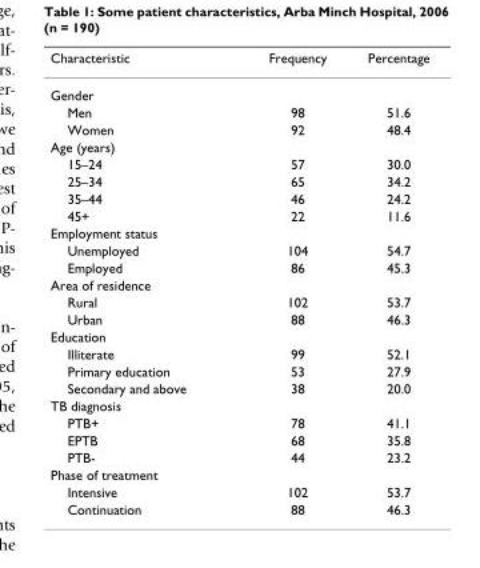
<table><thead><tr><td>Characteristic</td><td>Frequency</td><td>Percentage</td></tr></thead><tbody><tr><td colspan="3">Gender</td></tr><tr><td>Men</td><td>98</td><td>51.6</td></tr><tr><td>Women</td><td>92</td><td>48.4</td></tr><tr><td colspan="3">Age (years)</td></tr><tr><td>15–24</td><td>57</td><td>30.0</td></tr><tr><td>25–34</td><td>65</td><td>34.2</td></tr><tr><td>35–44</td><td>46</td><td>24.2</td></tr><tr><td>45+</td><td>22</td><td>11.6</td></tr><tr><td colspan="3">Employment status</td></tr><tr><td>Unemployed</td><td>104</td><td>54.7</td></tr><tr><td>Employed</td><td>86</td><td>45.3</td></tr><tr><td colspan="3">Area of residence</td></tr><tr><td>Rural</td><td>102</td><td>53.7</td></tr><tr><td>Urban</td><td>88</td><td>46.3</td></tr><tr><td colspan="3">Education</td></tr><tr><td>Illiterate</td><td>99</td><td>52.1</td></tr><tr><td>Primary education</td><td>53</td><td>27.9</td></tr><tr><td>Secondary and above</td><td>38</td><td>20.0</td></tr><tr><td colspan="3">TB diagnosis</td></tr><tr><td>PTB+</td><td>78</td><td>41.1</td></tr><tr><td>EPTB</td><td>68</td><td>35.8</td></tr><tr><td>PTB-</td><td>44</td><td>23.2</td></tr><tr><td colspan="3">Phase of treatment</td></tr><tr><td>Intensive</td><td>102</td><td>53.7</td></tr><tr><td>Continuation</td><td>88</td><td>46.3</td></tr></tbody></table>